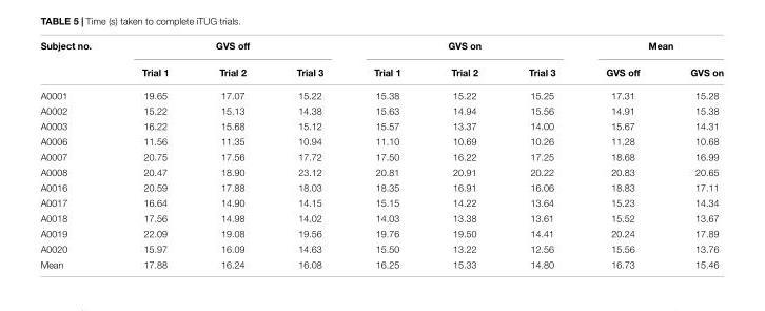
<table><thead><tr><td rowspan="2">Subject no.</td><td colspan="3">GVS off</td><td colspan="3">GVS on</td><td colspan="2">Mean</td></tr><tr><td>Trial 1</td><td>Trial 2</td><td>Trial 3</td><td>Trial 1</td><td>Trial 2</td><td>Trial 3</td><td>GVS off</td><td>GVS on</td></tr></thead><tbody><tr><td>A0001</td><td>19.65</td><td>17.07</td><td>15.22</td><td>15.38</td><td>15.22</td><td>15.25</td><td>17.31</td><td>15.28</td></tr><tr><td>A0002</td><td>15.22</td><td>15.13</td><td>14.38</td><td>15.63</td><td>14.94</td><td>15.56</td><td>14.91</td><td>15.38</td></tr><tr><td>A0003</td><td>16.22</td><td>15.68</td><td>15.12</td><td>15.57</td><td>13.37</td><td>14.00</td><td>15.67</td><td>14.31</td></tr><tr><td>A0006</td><td>11.56</td><td>11.35</td><td>10.94</td><td>11.10</td><td>10.69</td><td>10.26</td><td>11.28</td><td>10.68</td></tr><tr><td>A0007</td><td>20.75</td><td>17.56</td><td>17.72</td><td>17.50</td><td>16.22</td><td>17.25</td><td>18.68</td><td>16.99</td></tr><tr><td>A0008</td><td>20.47</td><td>18.90</td><td>23.12</td><td>20.81</td><td>20.91</td><td>20.22</td><td>20.83</td><td>20.65</td></tr><tr><td>A0016</td><td>20.59</td><td>17.88</td><td>18.03</td><td>18.35</td><td>16.91</td><td>16.06</td><td>18.83</td><td>17.11</td></tr><tr><td>A0017</td><td>16.64</td><td>14.90</td><td>14.15</td><td>15.15</td><td>14.22</td><td>13.64</td><td>15.23</td><td>14.34</td></tr><tr><td>A0018</td><td>17.56</td><td>14.98</td><td>14.02</td><td>14.03</td><td>13.38</td><td>13.61</td><td>15.52</td><td>13.67</td></tr><tr><td>A0019</td><td>22.09</td><td>19.08</td><td>19.56</td><td>19.76</td><td>19.50</td><td>14.41</td><td>20.24</td><td>17.89</td></tr><tr><td>A0020</td><td>15.97</td><td>16.09</td><td>14.63</td><td>15.50</td><td>13.22</td><td>12.56</td><td>15.56</td><td>13.76</td></tr><tr><td>Mean</td><td>17.88</td><td>16.24</td><td>16.08</td><td>16.25</td><td>15.33</td><td>14.80</td><td>16.73</td><td>15.46</td></tr></tbody></table>